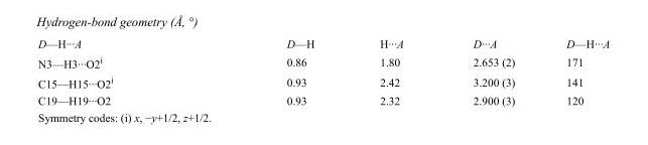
<table><tbody><tr><td>D—H···A</td><td>D—H</td><td>H···A</td><td>D···A</td><td>D—H···A</td></tr><tr><td>N3—H3···O2<sup>i</sup></td><td>0.86</td><td>1.80</td><td>2.653 (2)</td><td>171</td></tr><tr><td>C15—H15···O2<sup>i</sup></td><td>0.93</td><td>2.42</td><td>3.200 (3)</td><td>141</td></tr><tr><td>C19—H19···O2</td><td>0.93</td><td>2.32</td><td>2.900 (3)</td><td>120</td></tr></tbody></table>